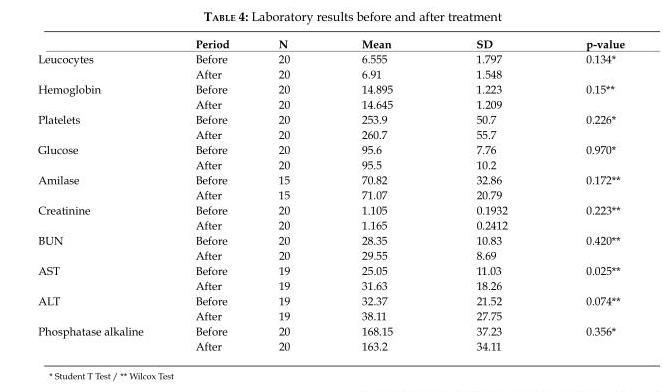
<table><thead><tr><td></td><td>Period</td><td>N</td><td>Mean</td><td>SD</td><td>p-value</td></tr></thead><tbody><tr><td rowspan="2">Leucocytes</td><td>Before</td><td>20</td><td>6.555</td><td>1.797</td><td>0.134*</td></tr><tr><td>After</td><td>20</td><td>6.91</td><td>1.548</td><td></td></tr><tr><td rowspan="2">Hemoglobin</td><td>Before</td><td>20</td><td>14.895</td><td>1.223</td><td>0.15**</td></tr><tr><td>After</td><td>20</td><td>14.645</td><td>1.209</td><td></td></tr><tr><td rowspan="2">Platelets</td><td>Before</td><td>20</td><td>253.9</td><td>50.7</td><td>0.226*</td></tr><tr><td>After</td><td>20</td><td>260.7</td><td>55.7</td><td></td></tr><tr><td rowspan="2">Glucose</td><td>Before</td><td>20</td><td>95.6</td><td>7.76</td><td>0.970*</td></tr><tr><td>After</td><td>20</td><td>95.5</td><td>10.2</td><td></td></tr><tr><td rowspan="2">Amilase</td><td>Before</td><td>15</td><td>70.82</td><td>32.86</td><td>0.172**</td></tr><tr><td>After</td><td>15</td><td>71.07</td><td>20.79</td><td></td></tr><tr><td rowspan="2">Creatinine</td><td>Before</td><td>20</td><td>1.105</td><td>0.1932</td><td>0.223**</td></tr><tr><td>After</td><td>20</td><td>1.165</td><td>0.2412</td><td></td></tr><tr><td rowspan="2">BUN</td><td>Before</td><td>20</td><td>28.35</td><td>10.83</td><td>0.420**</td></tr><tr><td>After</td><td>20</td><td>29.55</td><td>8.69</td><td></td></tr><tr><td rowspan="2">AST</td><td>Before</td><td>19</td><td>25.05</td><td>11.03</td><td>0.025**</td></tr><tr><td>After</td><td>19</td><td>31.63</td><td>18.26</td><td></td></tr><tr><td rowspan="2">ALT</td><td>Before</td><td>19</td><td>32.37</td><td>21.52</td><td>0.074**</td></tr><tr><td>After</td><td>19</td><td>38.11</td><td>27.75</td><td></td></tr><tr><td rowspan="2">Phosphatase alkaline</td><td>Before</td><td>20</td><td>168.15</td><td>37.23</td><td>0.356*</td></tr><tr><td>After</td><td>20</td><td>163.2</td><td>34.11</td><td></td></tr></tbody></table>